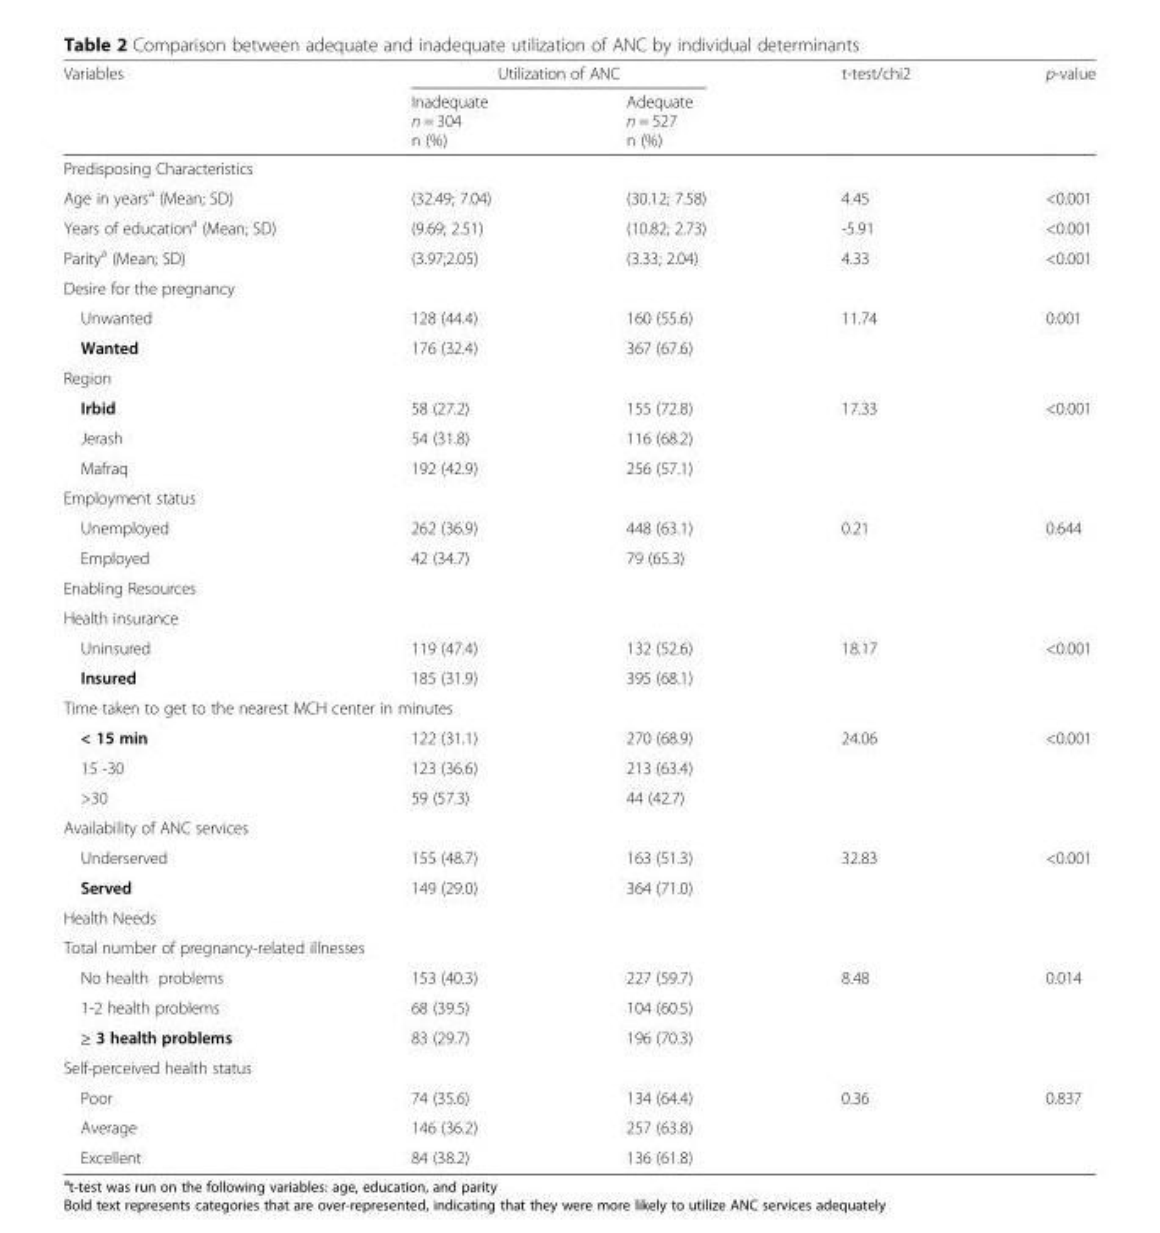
<table><thead><tr><td rowspan="2">Variables</td><td colspan="2">Utilization of ANC</td><td rowspan="2">t-test/chi2</td><td rowspan="2">p-value</td></tr><tr><td>Inadequate n = 304 n (%)</td><td>Adequate n = 527 n (%)</td></tr></thead><tbody><tr><td colspan="5">Predisposing Characteristics</td></tr><tr><td>Age in years<sup>a</sup> (Mean; SD)</td><td>(32.49; 7.04)</td><td>(30.12; 7.58)</td><td>4.45</td><td>&lt;0.001</td></tr><tr><td>Years of education<sup>a</sup> (Mean; SD)</td><td>(9.69; 2.51)</td><td>(10.82; 2.73)</td><td>-5.91</td><td>&lt;0.001</td></tr><tr><td>Parity<sup>a</sup> (Mean; SD)</td><td>(3.97;2.05)</td><td>(3.33; 2.04)</td><td>4.33</td><td>&lt;0.001</td></tr><tr><td colspan="5">Desire for the pregnancy</td></tr><tr><td>Unwanted</td><td>128 (44.4)</td><td>160 (55.6)</td><td rowspan="2">11.74</td><td rowspan="2">0.001</td></tr><tr><td>Wanted</td><td>176 (32.4)</td><td>367 (67.6)</td></tr><tr><td colspan="5">Region</td></tr><tr><td>Irbid</td><td>58 (27.2)</td><td>155 (72.8)</td><td rowspan="3">17.33</td><td rowspan="3">&lt;0.001</td></tr><tr><td>Jerash</td><td>54 (31.8)</td><td>116 (68.2)</td></tr><tr><td>Mafraq</td><td>192 (42.9)</td><td>256 (57.1)</td></tr><tr><td colspan="5">Employment status</td></tr><tr><td>Unemployed</td><td>262 (36.9)</td><td>448 (63.1)</td><td rowspan="2">0.21</td><td rowspan="2">0.644</td></tr><tr><td>Employed</td><td>42 (34.7)</td><td>79 (65.3)</td></tr><tr><td colspan="5">Enabling Resources</td></tr><tr><td colspan="5">Health insurance</td></tr><tr><td>Uninsured</td><td>119 (47.4)</td><td>132 (52.6)</td><td rowspan="2">18.17</td><td rowspan="2">&lt;0.001</td></tr><tr><td>Insured</td><td>185 (31.9)</td><td>395 (68.1)</td></tr><tr><td colspan="5">Time taken to get to the nearest MCH center in minutes</td></tr><tr><td>&lt; 15 min</td><td>122 (31.1)</td><td>270 (68.9)</td><td rowspan="3">24.06</td><td rowspan="3">&lt;0.001</td></tr><tr><td>15 -30</td><td>123 (36.6)</td><td>213 (63.4)</td></tr><tr><td>&gt;30</td><td>59 (57.3)</td><td>44 (42.7)</td></tr><tr><td colspan="5">Availability of ANC services</td></tr><tr><td>Underserved</td><td>155 (48.7)</td><td>163 (51.3)</td><td rowspan="2">32.83</td><td rowspan="2">&lt;0.001</td></tr><tr><td>Served</td><td>149 (29.0)</td><td>364 (71.0)</td></tr><tr><td colspan="5">Health Needs</td></tr><tr><td colspan="5">Total number of pregnancy-related illnesses</td></tr><tr><td>No health problems</td><td>153 (40.3)</td><td>227 (59.7)</td><td rowspan="3">8.48</td><td rowspan="3">0.014</td></tr><tr><td>1-2 health problems</td><td>68 (39.5)</td><td>104 (60.5)</td></tr><tr><td>≥ 3 health problems</td><td>83 (29.7)</td><td>196 (70.3)</td></tr><tr><td colspan="5">Self-perceived health status</td></tr><tr><td>Poor</td><td>74 (35.6)</td><td>134 (64.4)</td><td rowspan="3">0.36</td><td rowspan="3">0.837</td></tr><tr><td>Average</td><td>146 (36.2)</td><td>257 (63.8)</td></tr><tr><td>Excellent</td><td>84 (38.2)</td><td>136 (61.8)</td></tr></tbody></table>